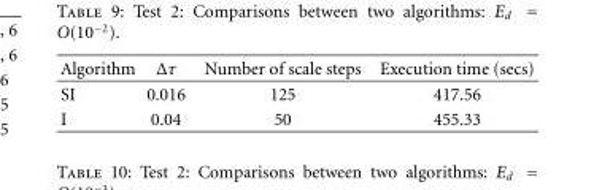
<table><thead><tr><td>Algorithm</td><td>Δτ</td><td>Number of scale steps</td><td>Execution time (secs)</td></tr></thead><tbody><tr><td>SI</td><td>0.016</td><td>125</td><td>417.56</td></tr><tr><td>I</td><td>0.04</td><td>50</td><td>455.33</td></tr></tbody></table>